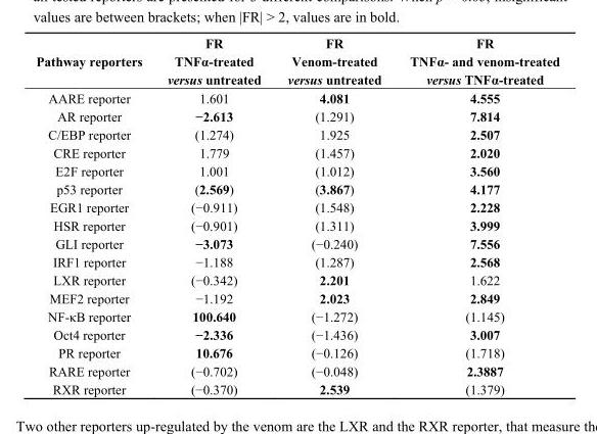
<table><thead><tr><td>Pathway reporters</td><td>FR TNFα-treated versus untreated</td><td>FR Venom-treated versus untreated</td><td>FR TNFα- and venom-treated versus TNFα-treated</td></tr></thead><tbody><tr><td>AARE reporter</td><td>1.601</td><td>4.081</td><td>4.555</td></tr><tr><td>AR reporter</td><td>−2.613</td><td>(1.291)</td><td>7.814</td></tr><tr><td>C/EBP reporter</td><td>(1.274)</td><td>1.925</td><td>2.507</td></tr><tr><td>CRE reporter</td><td>1.779</td><td>(1.457)</td><td>2.020</td></tr><tr><td>E2F reporter</td><td>1.001</td><td>(1.012)</td><td>3.560</td></tr><tr><td>p53 reporter</td><td>(2.569)</td><td>(3.867)</td><td>4.177</td></tr><tr><td>EGR1 reporter</td><td>(−0.911)</td><td>(1.548)</td><td>2.228</td></tr><tr><td>HSR reporter</td><td>(−0.901)</td><td>(1.311)</td><td>3.999</td></tr><tr><td>GLI reporter</td><td>−3.073</td><td>(−0.240)</td><td>7.556</td></tr><tr><td>IRF1 reporter</td><td>−1.188</td><td>(1.287)</td><td>2.568</td></tr><tr><td>LXR reporter</td><td>(−0.342)</td><td>2.201</td><td>1.622</td></tr><tr><td>MEF2 reporter</td><td>−1.192</td><td>2.023</td><td>2.849</td></tr><tr><td>NF-κB reporter</td><td>100.640</td><td>(−1.272)</td><td>(1.145)</td></tr><tr><td>Oct4 reporter</td><td>−2.336</td><td>(−1.436)</td><td>3.007</td></tr><tr><td>PR reporter</td><td>10.676</td><td>(−0.126)</td><td>(1.718)</td></tr><tr><td>RARE reporter</td><td>(−0.702)</td><td>(−0.048)</td><td>2.3887</td></tr><tr><td>RXR reporter</td><td>(−0.370)</td><td>2.539</td><td>(1.379)</td></tr></tbody></table>